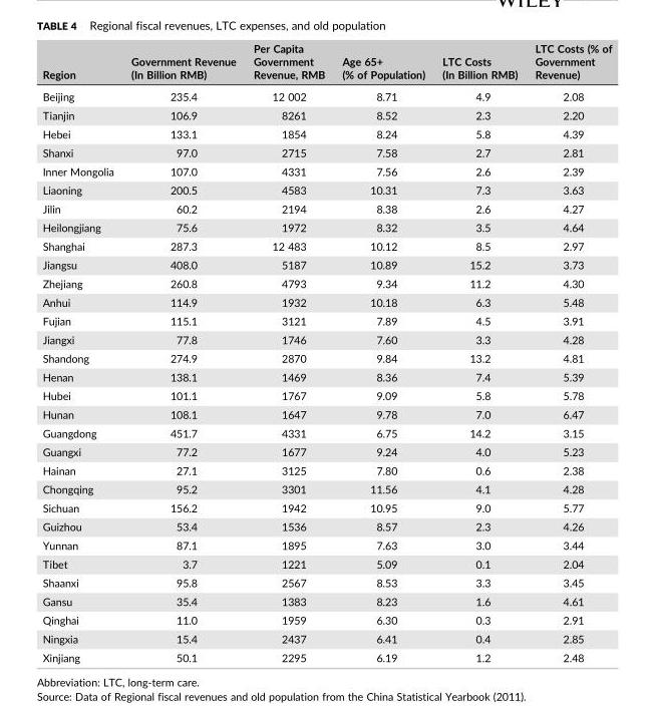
<table><thead><tr><td>Region</td><td>Government Revenue (In Billion RMB)</td><td>Per Capita Government Revenue, RMB</td><td>Age 65+ (% of Population)</td><td>LTC Costs (In Billion RMB)</td><td>LTC Costs (% of Government Revenue)</td></tr></thead><tbody><tr><td>Beijing</td><td>235.4</td><td>12 002</td><td>8.71</td><td>4.9</td><td>2.08</td></tr><tr><td>Tianjin</td><td>106.9</td><td>8261</td><td>8.52</td><td>2.3</td><td>2.20</td></tr><tr><td>Hebei</td><td>133.1</td><td>1854</td><td>8.24</td><td>5.8</td><td>4.39</td></tr><tr><td>Shanxi</td><td>97.0</td><td>2715</td><td>7.58</td><td>2.7</td><td>2.81</td></tr><tr><td>Inner Mongolia</td><td>107.0</td><td>4331</td><td>7.56</td><td>2.6</td><td>2.39</td></tr><tr><td>Liaoning</td><td>200.5</td><td>4583</td><td>10.31</td><td>7.3</td><td>3.63</td></tr><tr><td>Jilin</td><td>60.2</td><td>2194</td><td>8.38</td><td>2.6</td><td>4.27</td></tr><tr><td>Heilongjiang</td><td>75.6</td><td>1972</td><td>8.32</td><td>3.5</td><td>4.64</td></tr><tr><td>Shanghai</td><td>287.3</td><td>12 483</td><td>10.12</td><td>8.5</td><td>2.97</td></tr><tr><td>Jiangsu</td><td>408.0</td><td>5187</td><td>10.89</td><td>15.2</td><td>3.73</td></tr><tr><td>Zhejiang</td><td>260.8</td><td>4793</td><td>9.34</td><td>11.2</td><td>4.30</td></tr><tr><td>Anhui</td><td>114.9</td><td>1932</td><td>10.18</td><td>6.3</td><td>5.48</td></tr><tr><td>Fujian</td><td>115.1</td><td>3121</td><td>7.89</td><td>4.5</td><td>3.91</td></tr><tr><td>Jiangxi</td><td>77.8</td><td>1746</td><td>7.60</td><td>3.3</td><td>4.28</td></tr><tr><td>Shandong</td><td>274.9</td><td>2870</td><td>9.84</td><td>13.2</td><td>4.81</td></tr><tr><td>Henan</td><td>138.1</td><td>1469</td><td>8.36</td><td>7.4</td><td>5.39</td></tr><tr><td>Hubei</td><td>101.1</td><td>1767</td><td>9.09</td><td>5.8</td><td>5.78</td></tr><tr><td>Hunan</td><td>108.1</td><td>1647</td><td>9.78</td><td>7.0</td><td>6.47</td></tr><tr><td>Guangdong</td><td>451.7</td><td>4331</td><td>6.75</td><td>14.2</td><td>3.15</td></tr><tr><td>Guangxi</td><td>77.2</td><td>1677</td><td>9.24</td><td>4.0</td><td>5.23</td></tr><tr><td>Hainan</td><td>27.1</td><td>3125</td><td>7.80</td><td>0.6</td><td>2.38</td></tr><tr><td>Chongqing</td><td>95.2</td><td>3301</td><td>11.56</td><td>4.1</td><td>4.28</td></tr><tr><td>Sichuan</td><td>156.2</td><td>1942</td><td>10.95</td><td>9.0</td><td>5.77</td></tr><tr><td>Guizhou</td><td>53.4</td><td>1536</td><td>8.57</td><td>2.3</td><td>4.26</td></tr><tr><td>Yunnan</td><td>87.1</td><td>1895</td><td>7.63</td><td>3.0</td><td>3.44</td></tr><tr><td>Tibet</td><td>3.7</td><td>1221</td><td>5.09</td><td>0.1</td><td>2.04</td></tr><tr><td>Shaanxi</td><td>95.8</td><td>2567</td><td>8.53</td><td>3.3</td><td>3.45</td></tr><tr><td>Gansu</td><td>35.4</td><td>1383</td><td>8.23</td><td>1.6</td><td>4.61</td></tr><tr><td>Qinghai</td><td>11.0</td><td>1959</td><td>6.30</td><td>0.3</td><td>2.91</td></tr><tr><td>Ningxia</td><td>15.4</td><td>2437</td><td>6.41</td><td>0.4</td><td>2.85</td></tr><tr><td>Xinjiang</td><td>50.1</td><td>2295</td><td>6.19</td><td>1.2</td><td>2.48</td></tr></tbody></table>